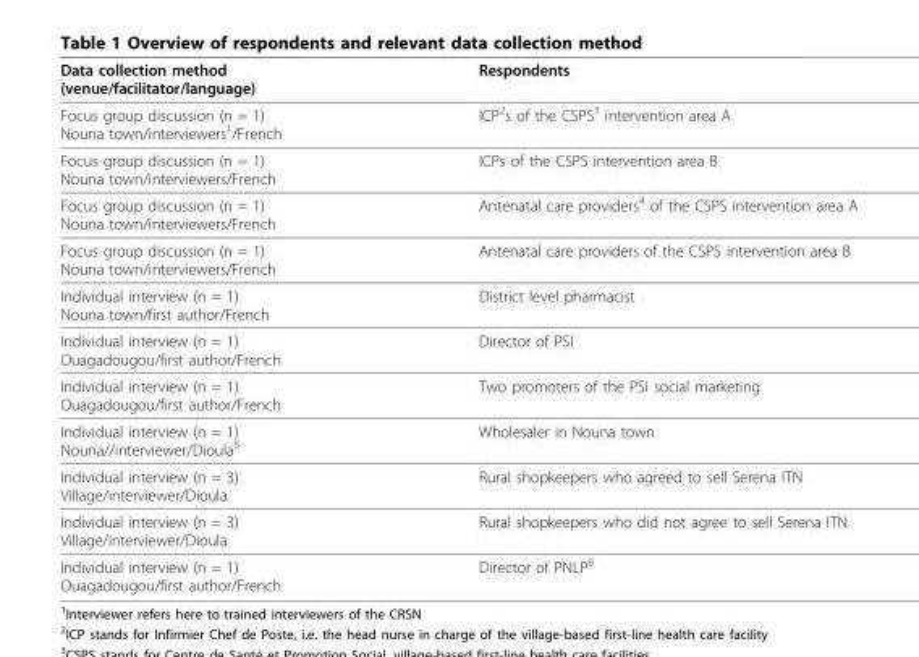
<table><thead><tr><td>Data collection method (venue/facilitator/language)</td><td>Respondents</td></tr></thead><tbody><tr><td>Focus group discussion (n = 1) Nouna town/interviewers<sup>1</sup>/French</td><td>ICP<sup>2</sup>s of the CSPS<sup>3</sup> intervention area A</td></tr><tr><td>Focus group discussion (n = 1) Nouna town/interviewers/French</td><td>ICPs of the CSPS intervention area B</td></tr><tr><td>Focus group discussion (n = 1) Nouna town/interviewers/French</td><td>Antenatal care providers<sup>4</sup> of the CSPS intervention area A</td></tr><tr><td>Focus group discussion (n = 1) Nouna town/interviewers/French</td><td>Antenatal care providers of the CSPS intervention area B</td></tr><tr><td>Individual interview (n = 1) Nouna town/first author/French</td><td>District level pharmacist</td></tr><tr><td>Individual interview (n = 1) Ouagadougou/first author/French</td><td>Director of PSI</td></tr><tr><td>Individual interview (n = 1) Ouagadougou/first author/French</td><td>Two promoters of the PSI social marketing</td></tr><tr><td>Individual interview (n = 1) Nouna//interviewer/Dioula<sup>5</sup></td><td>Wholesaler in Nouna town</td></tr><tr><td>Individual interview (n = 3) Village/interviewer/Dioula</td><td>Rural shopkeepers who agreed to sell Serena ITN</td></tr><tr><td>Individual interview (n = 3) Village/interviewer/Dioula</td><td>Rural shopkeepers who did not agree to sell Serena ITN</td></tr><tr><td>Individual interview (n = 1) Ouagadougou/first author/French</td><td>Director of PNLP<sup>6</sup></td></tr></tbody></table>